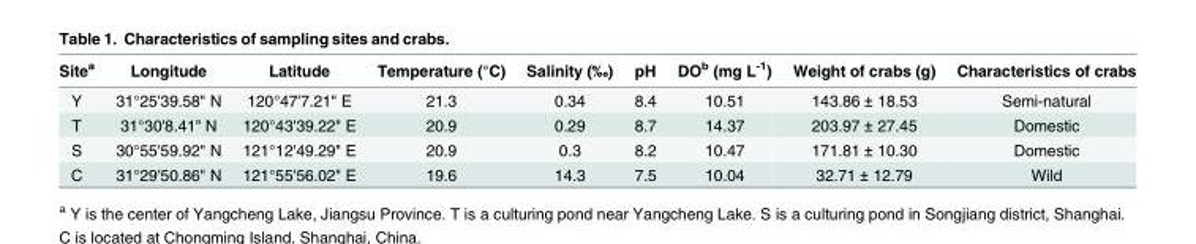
<table><thead><tr><td>Site<sup>a</sup></td><td>Longitude</td><td>Latitude</td><td>Temperature (°C)</td><td>Salinity (‰)</td><td>pH</td><td>DO<sup>b</sup> (mg L<sup>-1</sup>)</td><td>Weight of crabs (g)</td><td>Characteristics of crabs</td></tr></thead><tbody><tr><td>Y</td><td>31°25&#x27;39.58&quot; N</td><td>120°47&#x27;7.21&quot; E</td><td>21.3</td><td>0.34</td><td>8.4</td><td>10.51</td><td>143.86 ± 18.53</td><td>Semi-natural</td></tr><tr><td>T</td><td>31°30&#x27;8.41&quot; N</td><td>120°43&#x27;39.22&quot; E</td><td>20.9</td><td>0.29</td><td>8.7</td><td>14.37</td><td>203.97 ± 27.45</td><td>Domestic</td></tr><tr><td>S</td><td>30°55&#x27;59.92&quot; N</td><td>121°12&#x27;49.29&quot; E</td><td>20.9</td><td>0.3</td><td>8.2</td><td>10.47</td><td>171.81 ± 10.30</td><td>Domestic</td></tr><tr><td>C</td><td>31°29&#x27;50.86&quot; N</td><td>121°55&#x27;56.02&quot; E</td><td>19.6</td><td>14.3</td><td>7.5</td><td>10.04</td><td>32.71 ± 12.79</td><td>Wild</td></tr></tbody></table>